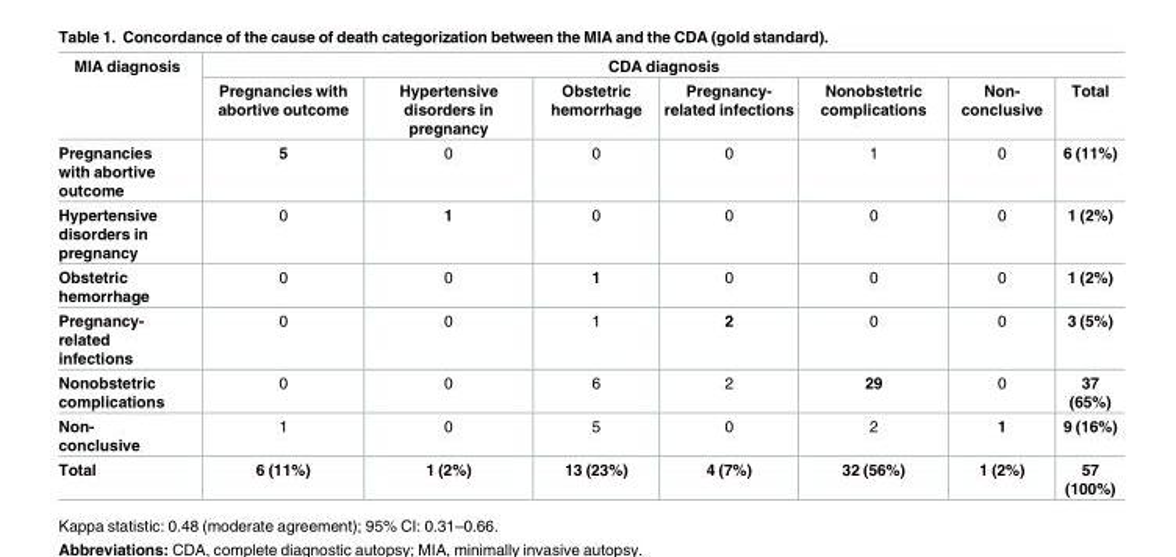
<table><thead><tr><td rowspan="2">MIA diagnosis</td><td colspan="7">CDA diagnosis</td></tr><tr><td>Pregnancies with abortive outcome</td><td>Hypertensive disorders in pregnancy</td><td>Obstetric hemorrhage</td><td>Pregnancy- related infections</td><td>Nonobstetric complications</td><td>Non- conclusive</td><td>Total</td></tr></thead><tbody><tr><td>Pregnancies with abortive outcome</td><td>5</td><td>0</td><td>0</td><td>0</td><td>1</td><td>0</td><td>6 (11%)</td></tr><tr><td>Hypertensive disorders in pregnancy</td><td>0</td><td>1</td><td>0</td><td>0</td><td>0</td><td>0</td><td>1 (2%)</td></tr><tr><td>Obstetric hemorrhage</td><td>0</td><td>0</td><td>1</td><td>0</td><td>0</td><td>0</td><td>1 (2%)</td></tr><tr><td>Pregnancy- related infections</td><td>0</td><td>0</td><td>1</td><td>2</td><td>0</td><td>0</td><td>3 (5%)</td></tr><tr><td>Nonobstetric complications</td><td>0</td><td>0</td><td>6</td><td>2</td><td>29</td><td>0</td><td>37 (65%)</td></tr><tr><td>Non- conclusive</td><td>1</td><td>0</td><td>5</td><td>0</td><td>2</td><td>1</td><td>9 (16%)</td></tr><tr><td>Total</td><td>6 (11%)</td><td>1 (2%)</td><td>13 (23%)</td><td>4 (7%)</td><td>32 (56%)</td><td>1 (2%)</td><td>57 (100%)</td></tr></tbody></table>